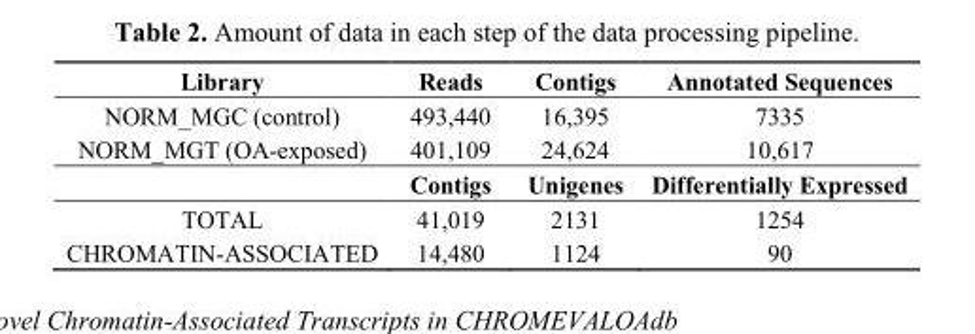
<table><thead><tr><td>Library</td><td>Reads</td><td>Contigs</td><td>Annotated Sequences</td></tr></thead><tbody><tr><td>NORM_MGC (control)</td><td>493,440</td><td>16,395</td><td>7335</td></tr><tr><td rowspan="2">NORM_MGT (OA-exposed)</td><td>401,109</td><td>24,624</td><td>10,617</td></tr><tr><td>Contigs</td><td>Unigenes</td><td>Differentially Expressed</td></tr><tr><td>TOTAL</td><td>41,019</td><td>2131</td><td>1254</td></tr><tr><td>CHROMATIN-ASSOCIATED</td><td>14,480</td><td>1124</td><td>90</td></tr></tbody></table>